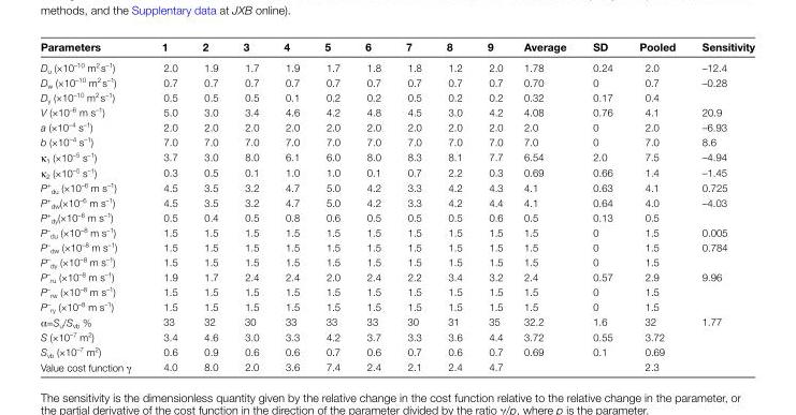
<table><thead><tr><td>Parameters</td><td>1</td><td>2</td><td>3</td><td>4</td><td>5</td><td>6</td><td>7</td><td>8</td><td>9</td><td>Average</td><td>SD</td><td>Pooled</td><td>Sensitivity</td></tr></thead><tbody><tr><td>D<sub>u</sub> (×10<sup>–10</sup> m<sup>2</sup> s<sup>–1</sup>)</td><td>2.0</td><td>1.9</td><td>1.7</td><td>1.9</td><td>1.7</td><td>1.8</td><td>1.8</td><td>1.2</td><td>2.0</td><td>1.78</td><td>0.24</td><td>2.0</td><td>–12.4</td></tr><tr><td>D<sub>w</sub> (×10<sup>–10</sup> m<sup>2</sup> s<sup>–1</sup>)</td><td>0.7</td><td>0.7</td><td>0.7</td><td>0.7</td><td>0.7</td><td>0.7</td><td>0.7</td><td>0.7</td><td>0.7</td><td>0.70</td><td>0</td><td>0.7</td><td>–0.28</td></tr><tr><td>D<sub>y</sub> (×10<sup>–10</sup> m<sup>2</sup> s<sup>–1</sup>)</td><td>0.5</td><td>0.5</td><td>0.5</td><td>0.1</td><td>0.2</td><td>0.2</td><td>0.5</td><td>0.2</td><td>0.2</td><td>0.32</td><td>0.17</td><td>0.4</td><td></td></tr><tr><td>V (×10<sup>–6</sup> m s<sup>–1</sup>)</td><td>5.0</td><td>3.0</td><td>3.4</td><td>4.6</td><td>4.2</td><td>4.8</td><td>4.5</td><td>3.0</td><td>4.2</td><td>4.08</td><td>0.76</td><td>4.1</td><td>20.9</td></tr><tr><td>a (×10<sup>–4</sup> s<sup>–1</sup>)</td><td>2.0</td><td>2.0</td><td>2.0</td><td>2.0</td><td>2.0</td><td>2.0</td><td>2.0</td><td>2.0</td><td>2.0</td><td>2.0</td><td>0</td><td>2.0</td><td>–6.93</td></tr><tr><td>b (×10<sup>–4</sup> s<sup>–1</sup>)</td><td>7.0</td><td>7.0</td><td>7.0</td><td>7.0</td><td>7.0</td><td>7.0</td><td>7.0</td><td>7.0</td><td>7.0</td><td>7.0</td><td>0</td><td>7.0</td><td>8.6</td></tr><tr><td>κ<sub>1</sub> (×10<sup>–5</sup> s<sup>–1</sup>)</td><td>3.7</td><td>3.0</td><td>8.0</td><td>6.1</td><td>6.0</td><td>8.0</td><td>8.3</td><td>8.1</td><td>7.7</td><td>6.54</td><td>2.0</td><td>7.5</td><td>–4.94</td></tr><tr><td>κ<sub>2</sub> (×10<sup>–5</sup> s<sup>–1</sup>)</td><td>0.3</td><td>0.5</td><td>0.1</td><td>1.0</td><td>1.0</td><td>0.1</td><td>0.7</td><td>2.2</td><td>0.3</td><td>0.69</td><td>0.66</td><td>1.4</td><td>–1.45</td></tr><tr><td>P<sup>+</sup> <sub>du</sub> (×10<sup>–6</sup> m s<sup>–1</sup>)</td><td>4.5</td><td>3.5</td><td>3.2</td><td>4.7</td><td>5.0</td><td>4.2</td><td>3.3</td><td>4.2</td><td>4.3</td><td>4.1</td><td>0.63</td><td>4.1</td><td>0.725</td></tr><tr><td>P<sup>+</sup> <sub>dw</sub>(×10<sup>–6</sup> m s<sup>–1</sup>)</td><td>4.5</td><td>3.5</td><td>3.2</td><td>4.7</td><td>5.0</td><td>4.2</td><td>3.3</td><td>4.2</td><td>4.4</td><td>4.1</td><td>0.64</td><td>4.0</td><td>–4.03</td></tr><tr><td>P<sup>+</sup> <sub>dy</sub>(×10<sup>–6</sup> m s<sup>–1</sup>)</td><td>0.5</td><td>0.4</td><td>0.5</td><td>0.8</td><td>0.6</td><td>0.5</td><td>0.5</td><td>0.5</td><td>0.6</td><td>0.5</td><td>0.13</td><td>0.5</td><td></td></tr><tr><td>P<sup>–</sup> <sub>du</sub> (×10<sup>–8</sup> m s<sup>–1</sup>)</td><td>1.5</td><td>1.5</td><td>1.5</td><td>1.5</td><td>1.5</td><td>1.5</td><td>1.5</td><td>1.5</td><td>1.5</td><td>1.5</td><td>0</td><td>1.5</td><td>0.005</td></tr><tr><td>P<sup>–</sup> <sub>dw</sub> (×10<sup>–8</sup> m s<sup>–1</sup>)</td><td>1.5</td><td>1.5</td><td>1.5</td><td>1.5</td><td>1.5</td><td>1.5</td><td>1.5</td><td>1.5</td><td>1.5</td><td>1.5</td><td>0</td><td>1.5</td><td>0.784</td></tr><tr><td>P<sup>–</sup> <sub>dy</sub> (×10<sup>–8</sup> m s<sup>–1</sup>)</td><td>1.5</td><td>1.5</td><td>1.5</td><td>1.5</td><td>1.5</td><td>1.5</td><td>1.5</td><td>1.5</td><td>1.5</td><td>1.5</td><td>0</td><td>1.5</td><td></td></tr><tr><td>P<sup>–</sup> <sub>ru</sub> (×10<sup>–8</sup> m s<sup>–1</sup>)</td><td>1.9</td><td>1.7</td><td>2.4</td><td>2.4</td><td>2.0</td><td>2.4</td><td>2.2</td><td>3.4</td><td>3.2</td><td>2.4</td><td>0.57</td><td>2.9</td><td>9.96</td></tr><tr><td>P<sup>–</sup> <sub>rw</sub> (×10<sup>–8</sup> m s<sup>–1</sup>)</td><td>1.5</td><td>1.5</td><td>1.5</td><td>1.5</td><td>1.5</td><td>1.5</td><td>1.5</td><td>1.5</td><td>1.5</td><td>1.5</td><td>0</td><td>1.5</td><td></td></tr><tr><td>P<sup>–</sup> <sub>ry</sub> (×10<sup>–8</sup> m s<sup>–1</sup>)</td><td>1.5</td><td>1.5</td><td>1.5</td><td>1.5</td><td>1.5</td><td>1.5</td><td>1.5</td><td>1.5</td><td>1.5</td><td>1.5</td><td>0</td><td>1.5</td><td></td></tr><tr><td>α=S<sub>u</sub>/S<sub>vb</sub> %</td><td>33</td><td>32</td><td>30</td><td>33</td><td>33</td><td>33</td><td>30</td><td>31</td><td>35</td><td>32.2</td><td>1.6</td><td>32</td><td>1.77</td></tr><tr><td>S (×10<sup>–7</sup> m<sup>2</sup>)</td><td>3.4</td><td>4.6</td><td>3.0</td><td>3.3</td><td>4.2</td><td>3.7</td><td>3.3</td><td>3.6</td><td>4.4</td><td>3.72</td><td>0.55</td><td>3.72</td><td></td></tr><tr><td>S<sub>vb</sub> (×10<sup>–7</sup> m<sup>2</sup>)</td><td>0.6</td><td>0.9</td><td>0.6</td><td>0.6</td><td>0.7</td><td>0.6</td><td>0.7</td><td>0.6</td><td>0.7</td><td>0.69</td><td>0.1</td><td>0.69</td><td></td></tr><tr><td>Value cost function γ</td><td>4.0</td><td>8.0</td><td>2.0</td><td>3.6</td><td>7.4</td><td>2.4</td><td>2.1</td><td>2.4</td><td>4.7</td><td></td><td></td><td>2.3</td><td></td></tr></tbody></table>